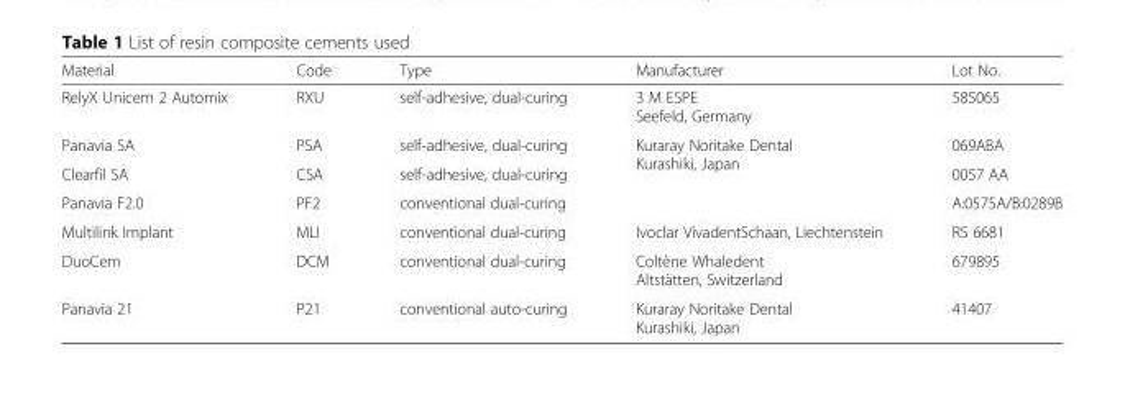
<table><thead><tr><td>Material</td><td>Code</td><td>Type</td><td>Manufacturer</td><td>Lot No.</td></tr></thead><tbody><tr><td>RelyX Unicem 2 Automix</td><td>RXU</td><td>self-adhesive, dual-curing</td><td>3 M ESPE Seefeld, Germany</td><td>585065</td></tr><tr><td>Panavia SA</td><td>PSA</td><td>self-adhesive, dual-curing</td><td rowspan="3">Kuraray Noritake Dental Kurashiki, Japan</td><td>069ABA</td></tr><tr><td>Clearfil SA</td><td>CSA</td><td>self-adhesive, dual-curing</td><td>0057 AA</td></tr><tr><td>Panavia F2.0</td><td>PF2</td><td>conventional dual-curing</td><td>A:0575A/B:0289B</td></tr><tr><td>Multilink Implant</td><td>MLI</td><td>conventional dual-curing</td><td>Ivoclar VivadentSchaan, Liechtenstein</td><td>RS 6681</td></tr><tr><td>DuoCem</td><td>DCM</td><td>conventional dual-curing</td><td>Coltène Whaledent Altstätten, Switzerland</td><td>679895</td></tr><tr><td>Panavia 21</td><td>P21</td><td>conventional auto-curing</td><td>Kuraray Noritake Dental Kurashiki, Japan</td><td>41407</td></tr></tbody></table>